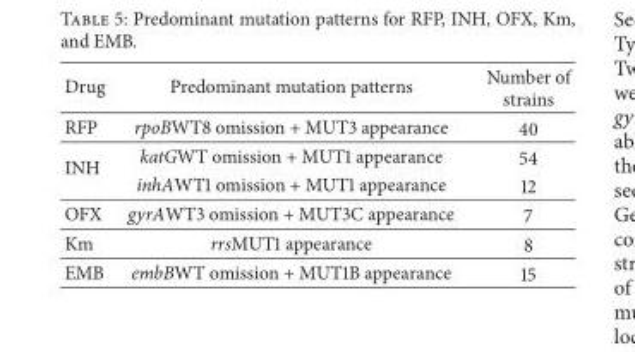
<table><thead><tr><td>Drug</td><td>Predominant mutation patterns</td><td>Number of strains</td></tr></thead><tbody><tr><td>RFP</td><td>rpoBWT8 omission + MUT3 appearance</td><td>40</td></tr><tr><td rowspan="2">INH</td><td>katGWT omission + MUT1 appearance</td><td>54</td></tr><tr><td>inhAWT1 omission + MUT1 appearance</td><td>12</td></tr><tr><td>OFX</td><td>gyrAWT3 omission + MUT3C appearance</td><td>7</td></tr><tr><td>Km</td><td>rrsMUT1 appearance</td><td>8</td></tr><tr><td>EMB</td><td>embBWT omission + MUT1B appearance</td><td>15</td></tr></tbody></table>